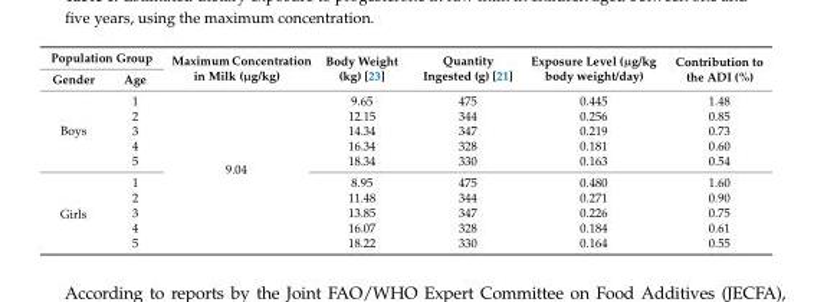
<table><thead><tr><td colspan="2">Population Group</td><td rowspan="2">Maximum Concentration in Milk (µg/kg)</td><td rowspan="2">Body Weight (kg) [23]</td><td rowspan="2">Quantity Ingested (g) [21]</td><td rowspan="2">Exposure Level (µg/kg body weight/day)</td><td rowspan="2">Contribution to the ADI (%)</td></tr><tr><td>Gender</td><td>Age</td></tr></thead><tbody><tr><td rowspan="5">Boys</td><td>1</td><td rowspan="10">9.04</td><td>9.65</td><td>475</td><td>0.445</td><td>1.48</td></tr><tr><td>2</td><td>12.15</td><td>344</td><td>0.256</td><td>0.85</td></tr><tr><td>3</td><td>14.34</td><td>347</td><td>0.219</td><td>0.73</td></tr><tr><td>4</td><td>16.34</td><td>328</td><td>0.181</td><td>0.60</td></tr><tr><td>5</td><td>18.34</td><td>330</td><td>0.163</td><td>0.54</td></tr><tr><td rowspan="5">Girls</td><td>1</td><td>8.95</td><td>475</td><td>0.480</td><td>1.60</td></tr><tr><td>2</td><td>11.48</td><td>344</td><td>0.271</td><td>0.90</td></tr><tr><td>3</td><td>13.85</td><td>347</td><td>0.226</td><td>0.75</td></tr><tr><td>4</td><td>16.07</td><td>328</td><td>0.184</td><td>0.61</td></tr><tr><td>5</td><td>18.22</td><td>330</td><td>0.164</td><td>0.55</td></tr></tbody></table>